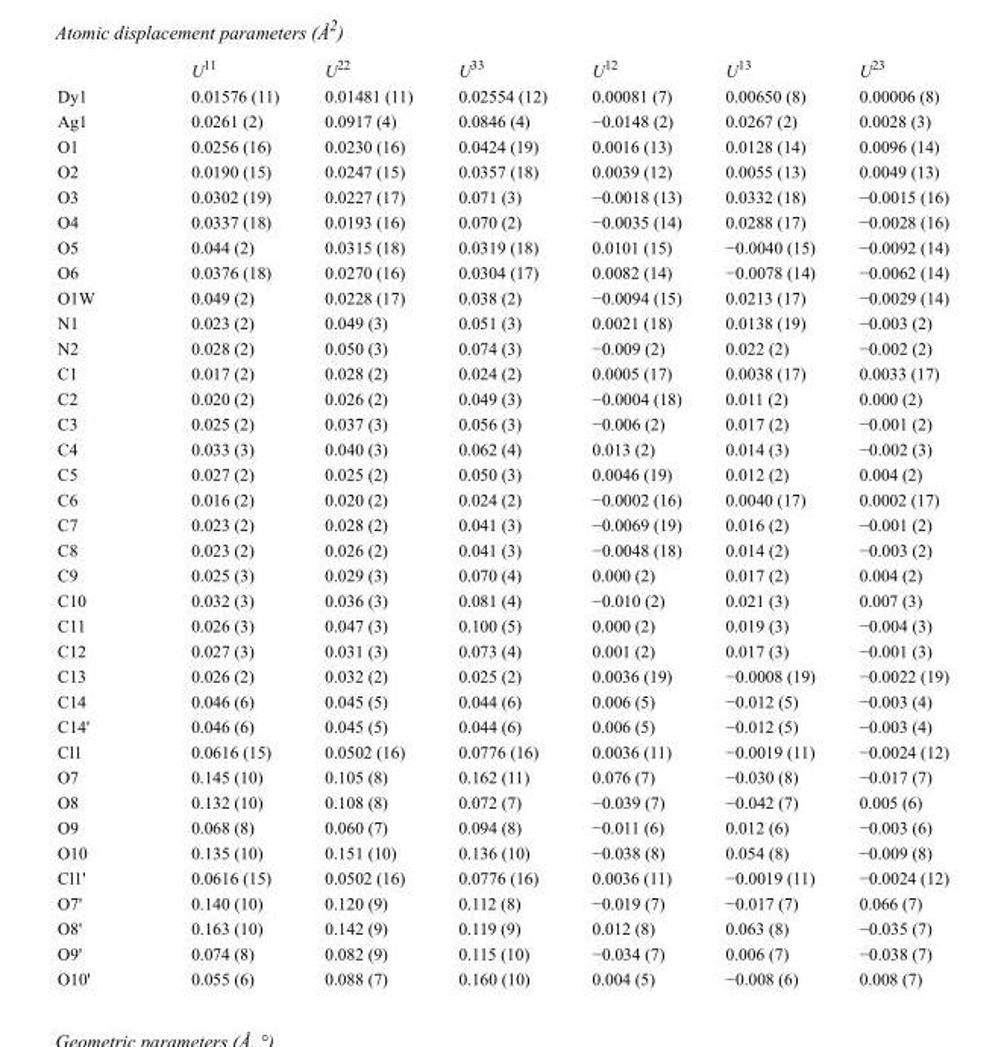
<table><thead><tr><td></td><td>U<sup>11</sup></td><td>U<sup>22</sup></td><td>U<sup>33</sup></td><td>U<sup>12</sup></td><td>U<sup>13</sup></td><td>U<sup>23</sup></td></tr></thead><tbody><tr><td>Dy1</td><td>0.01576 (11)</td><td>0.01481 (11)</td><td>0.02554 (12)</td><td>0.00081 (7)</td><td>0.00650 (8)</td><td>0.00006 (8)</td></tr><tr><td>Ag1</td><td>0.0261 (2)</td><td>0.0917 (4)</td><td>0.0846 (4)</td><td>−0.0148 (2)</td><td>0.0267 (2)</td><td>0.0028 (3)</td></tr><tr><td>O1</td><td>0.0256 (16)</td><td>0.0230 (16)</td><td>0.0424 (19)</td><td>0.0016 (13)</td><td>0.0128 (14)</td><td>0.0096 (14)</td></tr><tr><td>O2</td><td>0.0190 (15)</td><td>0.0247 (15)</td><td>0.0357 (18)</td><td>0.0039 (12)</td><td>0.0055 (13)</td><td>0.0049 (13)</td></tr><tr><td>O3</td><td>0.0302 (19)</td><td>0.0227 (17)</td><td>0.071 (3)</td><td>−0.0018 (13)</td><td>0.0332 (18)</td><td>−0.0015 (16)</td></tr><tr><td>O4</td><td>0.0337 (18)</td><td>0.0193 (16)</td><td>0.070 (2)</td><td>−0.0035 (14)</td><td>0.0288 (17)</td><td>−0.0028 (16)</td></tr><tr><td>O5</td><td>0.044 (2)</td><td>0.0315 (18)</td><td>0.0319 (18)</td><td>0.0101 (15)</td><td>−0.0040 (15)</td><td>−0.0092 (14)</td></tr><tr><td>O6</td><td>0.0376 (18)</td><td>0.0270 (16)</td><td>0.0304 (17)</td><td>0.0082 (14)</td><td>−0.0078 (14)</td><td>−0.0062 (14)</td></tr><tr><td>O1W</td><td>0.049 (2)</td><td>0.0228 (17)</td><td>0.038 (2)</td><td>−0.0094 (15)</td><td>0.0213 (17)</td><td>−0.0029 (14)</td></tr><tr><td>N1</td><td>0.023 (2)</td><td>0.049 (3)</td><td>0.051 (3)</td><td>0.0021 (18)</td><td>0.0138 (19)</td><td>−0.003 (2)</td></tr><tr><td>N2</td><td>0.028 (2)</td><td>0.050 (3)</td><td>0.074 (3)</td><td>−0.009 (2)</td><td>0.022 (2)</td><td>−0.002 (2)</td></tr><tr><td>C1</td><td>0.017 (2)</td><td>0.028 (2)</td><td>0.024 (2)</td><td>0.0005 (17)</td><td>0.0038 (17)</td><td>0.0033 (17)</td></tr><tr><td>C2</td><td>0.020 (2)</td><td>0.026 (2)</td><td>0.049 (3)</td><td>−0.0004 (18)</td><td>0.011 (2)</td><td>0.000 (2)</td></tr><tr><td>C3</td><td>0.025 (2)</td><td>0.037 (3)</td><td>0.056 (3)</td><td>−0.006 (2)</td><td>0.017 (2)</td><td>−0.001 (2)</td></tr><tr><td>C4</td><td>0.033 (3)</td><td>0.040 (3)</td><td>0.062 (4)</td><td>0.013 (2)</td><td>0.014 (3)</td><td>−0.002 (3)</td></tr><tr><td>C5</td><td>0.027 (2)</td><td>0.025 (2)</td><td>0.050 (3)</td><td>0.0046 (19)</td><td>0.012 (2)</td><td>0.004 (2)</td></tr><tr><td>C6</td><td>0.016 (2)</td><td>0.020 (2)</td><td>0.024 (2)</td><td>−0.0002 (16)</td><td>0.0040 (17)</td><td>0.0002 (17)</td></tr><tr><td>C7</td><td>0.023 (2)</td><td>0.028 (2)</td><td>0.041 (3)</td><td>−0.0069 (19)</td><td>0.016 (2)</td><td>−0.001 (2)</td></tr><tr><td>C8</td><td>0.023 (2)</td><td>0.026 (2)</td><td>0.041 (3)</td><td>−0.0048 (18)</td><td>0.014 (2)</td><td>−0.003 (2)</td></tr><tr><td>C9</td><td>0.025 (3)</td><td>0.029 (3)</td><td>0.070 (4)</td><td>0.000 (2)</td><td>0.017 (2)</td><td>0.004 (2)</td></tr><tr><td>C10</td><td>0.032 (3)</td><td>0.036 (3)</td><td>0.081 (4)</td><td>−0.010 (2)</td><td>0.021 (3)</td><td>0.007 (3)</td></tr><tr><td>C11</td><td>0.026 (3)</td><td>0.047 (3)</td><td>0.100 (5)</td><td>0.000 (2)</td><td>0.019 (3)</td><td>−0.004 (3)</td></tr><tr><td>C12</td><td>0.027 (3)</td><td>0.031 (3)</td><td>0.073 (4)</td><td>0.001 (2)</td><td>0.017 (3)</td><td>−0.001 (3)</td></tr><tr><td>C13</td><td>0.026 (2)</td><td>0.032 (2)</td><td>0.025 (2)</td><td>0.0036 (19)</td><td>−0.0008 (19)</td><td>−0.0022 (19)</td></tr><tr><td>C14</td><td>0.046 (6)</td><td>0.045 (5)</td><td>0.044 (6)</td><td>0.006 (5)</td><td>−0.012 (5)</td><td>−0.003 (4)</td></tr><tr><td>C14&#x27;</td><td>0.046 (6)</td><td>0.045 (5)</td><td>0.044 (6)</td><td>0.006 (5)</td><td>−0.012 (5)</td><td>−0.003 (4)</td></tr><tr><td>Cl1</td><td>0.0616 (15)</td><td>0.0502 (16)</td><td>0.0776 (16)</td><td>0.0036 (11)</td><td>−0.0019 (11)</td><td>−0.0024 (12)</td></tr><tr><td>O7</td><td>0.145 (10)</td><td>0.105 (8)</td><td>0.162 (11)</td><td>0.076 (7)</td><td>−0.030 (8)</td><td>−0.017 (7)</td></tr><tr><td>O8</td><td>0.132 (10)</td><td>0.108 (8)</td><td>0.072 (7)</td><td>−0.039 (7)</td><td>−0.042 (7)</td><td>0.005 (6)</td></tr><tr><td>O9</td><td>0.068 (8)</td><td>0.060 (7)</td><td>0.094 (8)</td><td>−0.011 (6)</td><td>0.012 (6)</td><td>−0.003 (6)</td></tr><tr><td>O10</td><td>0.135 (10)</td><td>0.151 (10)</td><td>0.136 (10)</td><td>−0.038 (8)</td><td>0.054 (8)</td><td>−0.009 (8)</td></tr><tr><td>Cl1&#x27;</td><td>0.0616 (15)</td><td>0.0502 (16)</td><td>0.0776 (16)</td><td>0.0036 (11)</td><td>−0.0019 (11)</td><td>−0.0024 (12)</td></tr><tr><td>O7&#x27;</td><td>0.140 (10)</td><td>0.120 (9)</td><td>0.112 (8)</td><td>−0.019 (7)</td><td>−0.017 (7)</td><td>0.066 (7)</td></tr><tr><td>O8&#x27;</td><td>0.163 (10)</td><td>0.142 (9)</td><td>0.119 (9)</td><td>0.012 (8)</td><td>0.063 (8)</td><td>−0.035 (7)</td></tr><tr><td>O9&#x27;</td><td>0.074 (8)</td><td>0.082 (9)</td><td>0.115 (10)</td><td>−0.034 (7)</td><td>0.006 (7)</td><td>−0.038 (7)</td></tr><tr><td>O10&#x27;</td><td>0.055 (6)</td><td>0.088 (7)</td><td>0.160 (10)</td><td>0.004 (5)</td><td>−0.008 (6)</td><td>0.008 (7)</td></tr></tbody></table>